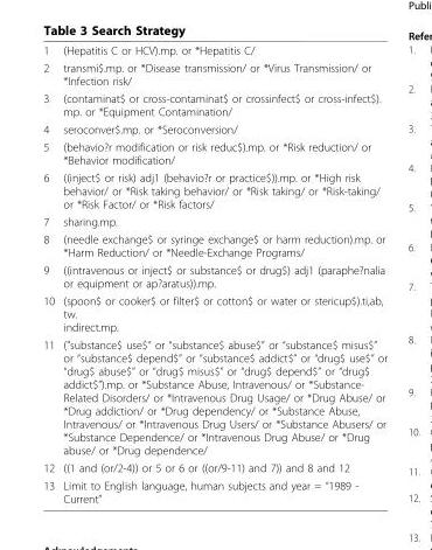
<table><tbody><tr><td>1</td><td>(Hepatitis C or HCV).mp. or *Hepatitis C/</td></tr><tr><td>2</td><td>transmi$.mp. or *Disease transmission/ or *Virus Transmission/ or *Infection risk/</td></tr><tr><td>3</td><td>(contaminat$ or cross-contaminat$ or crossinfect$ or cross-infect$). mp. or *Equipment Contamination/</td></tr><tr><td>4</td><td>seroconver$.mp. or *Seroconversion/</td></tr><tr><td>5</td><td>(behavio?r modification or risk reduc$).mp. or *Risk reduction/ or *Behavior modification/</td></tr><tr><td>6</td><td>((inject$ or risk) adj1 (behavio?r or practice$)).mp. or *High risk behavior/ or *Risk taking behavior/ or *Risk taking/ or *Risk-taking/ or *Risk Factor/ or *Risk factors/</td></tr><tr><td>7</td><td>sharing.mp.</td></tr><tr><td>8</td><td>(needle exchange$ or syringe exchange$ or harm reduction).mp. or *Harm Reduction/ or *Needle-Exchange Programs/</td></tr><tr><td>9</td><td>((intravenous or inject$ or substance$ or drug$) adj1 (paraphe?nalia or equipment or ap?aratus)).mp.</td></tr><tr><td>10</td><td>(spoon$ or cooker$ or filter$ or cotton$ or water or stericup$).ti,ab, tw. indirect.mp.</td></tr><tr><td>11</td><td>(&quot;substance$ use$” or “substance$ abuse$” or “substance$ misus$” or “substance$ depend$” or “substance$ addict$” or “drug$ use$” or “drug$ abuse$” or “drug$ misus$” or “drug$ depend$” or “drug$ addict$”).mp. or *Substance Abuse, Intravenous/ or *Substance- Related Disorders/ or *Intravenous Drug Usage/ or *Drug Abuse/ or *Drug addiction/ or *Drug dependency/ or *Substance Abuse, Intravenous/ or *Intravenous Drug Users/ or *Substance Abusers/ or *Substance Dependence/ or *Intravenous Drug Abuse/ or *Drug abuse/ or *Drug dependence/</td></tr><tr><td>12</td><td>((1 and (or/2-4)) or 5 or 6 or ((or/9-11) and 7)) and 8 and 12</td></tr><tr><td>13</td><td>Limit to English language, human subjects and year = “1989 - Current”</td></tr></tbody></table>